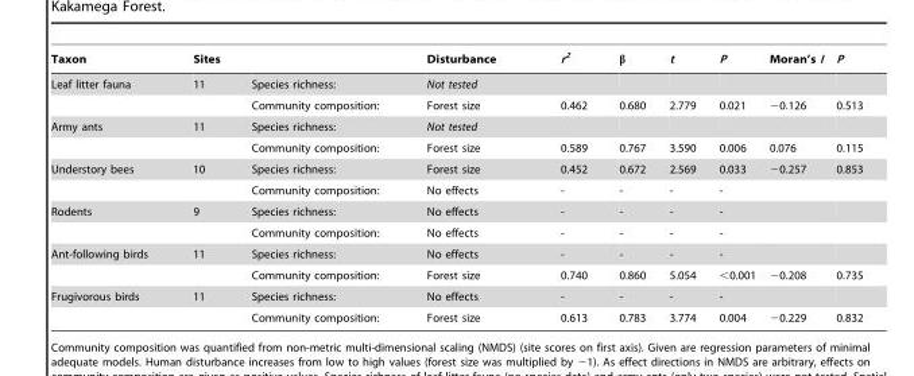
<table><thead><tr><td>Taxon</td><td>Sites</td><td></td><td>Disturbance</td><td>r<sup>2</sup></td><td>β</td><td>t</td><td>P</td><td>Moran’s I</td><td>P</td></tr></thead><tbody><tr><td rowspan="2">Leaf litter fauna</td><td>11</td><td>Species richness:</td><td>Not tested</td><td></td><td></td><td></td><td></td><td></td><td></td></tr><tr><td></td><td>Community composition:</td><td>Forest size</td><td>0.462</td><td>0.680</td><td>2.779</td><td>0.021</td><td>−0.126</td><td>0.513</td></tr><tr><td rowspan="2">Army ants</td><td>11</td><td>Species richness:</td><td>Not tested</td><td></td><td></td><td></td><td></td><td></td><td></td></tr><tr><td></td><td>Community composition:</td><td>Forest size</td><td>0.589</td><td>0.767</td><td>3.590</td><td>0.006</td><td>0.076</td><td>0.115</td></tr><tr><td rowspan="2">Understory bees</td><td>10</td><td>Species richness:</td><td>Forest size</td><td>0.452</td><td>0.672</td><td>2.569</td><td>0.033</td><td>−0.257</td><td>0.853</td></tr><tr><td></td><td>Community composition:</td><td>No effects</td><td>-</td><td>-</td><td>-</td><td>-</td><td></td><td></td></tr><tr><td rowspan="2">Rodents</td><td>9</td><td>Species richness:</td><td>No effects</td><td>-</td><td>-</td><td>-</td><td>-</td><td></td><td></td></tr><tr><td></td><td>Community composition:</td><td>No effects</td><td>-</td><td>-</td><td>-</td><td>-</td><td></td><td></td></tr><tr><td rowspan="2">Ant-following birds</td><td>11</td><td>Species richness:</td><td>No effects</td><td>-</td><td>-</td><td>-</td><td>-</td><td></td><td></td></tr><tr><td></td><td>Community composition:</td><td>Forest size</td><td>0.740</td><td>0.860</td><td>5.054</td><td>&lt;0.001</td><td>−0.208</td><td>0.735</td></tr><tr><td rowspan="2">Frugivorous birds</td><td>11</td><td>Species richness:</td><td>No effects</td><td>-</td><td>-</td><td>-</td><td>-</td><td></td><td></td></tr><tr><td></td><td>Community composition:</td><td>Forest size</td><td>0.613</td><td>0.783</td><td>3.774</td><td>0.004</td><td>−0.229</td><td>0.832</td></tr></tbody></table>